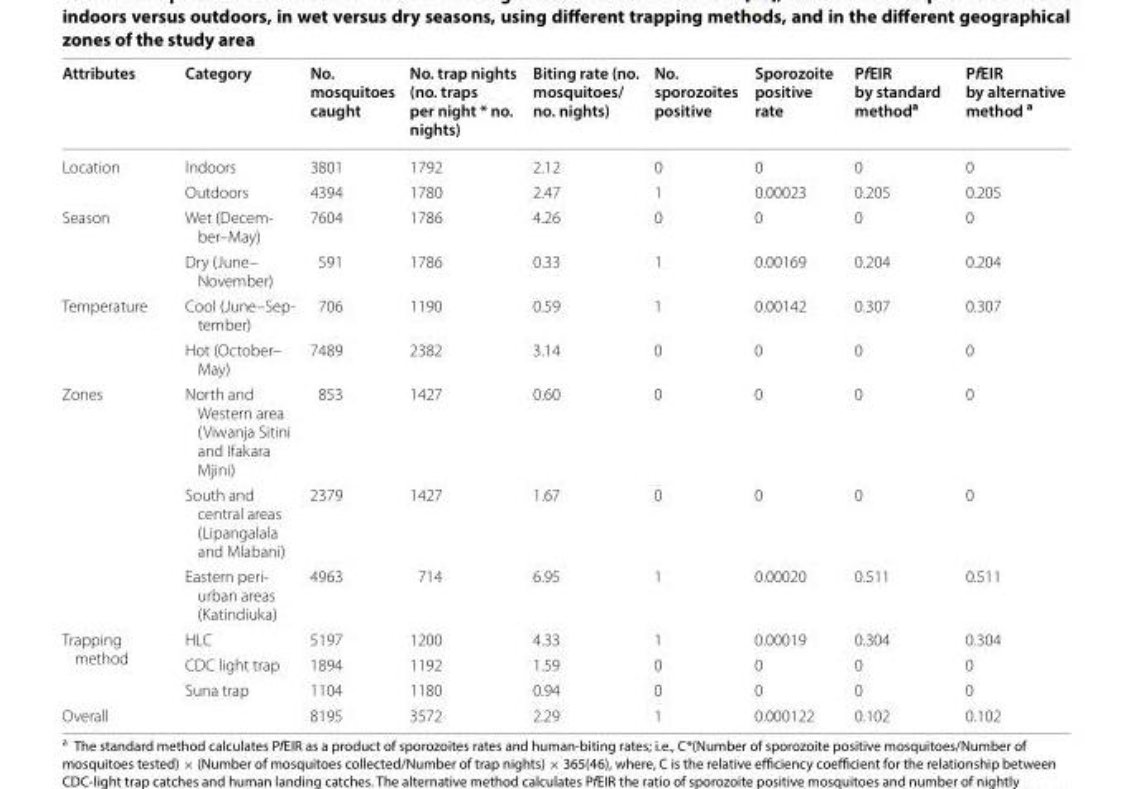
<table><thead><tr><td>Attributes</td><td>Category</td><td>No. mosquitoes caught</td><td>No. trap nights (no. traps per night * no. nights)</td><td>Biting rate (no. mosquitoes/ no. nights)</td><td>No. sporozoites positive</td><td>Sporozoite positive rate</td><td>PfEIR by standard method<sup>a</sup></td><td>PfEIR by alternative method <sup>a</sup></td></tr></thead><tbody><tr><td rowspan="2">Location</td><td>Indoors</td><td>3801</td><td>1792</td><td>2.12</td><td>0</td><td>0</td><td>0</td><td>0</td></tr><tr><td>Outdoors</td><td>4394</td><td>1780</td><td>2.47</td><td>1</td><td>0.00023</td><td>0.205</td><td>0.205</td></tr><tr><td rowspan="2">Season</td><td>Wet (Decem- ber–May)</td><td>7604</td><td>1786</td><td>4.26</td><td>0</td><td>0</td><td>0</td><td>0</td></tr><tr><td>Dry (June– November)</td><td>591</td><td>1786</td><td>0.33</td><td>1</td><td>0.00169</td><td>0.204</td><td>0.204</td></tr><tr><td rowspan="2">Temperature</td><td>Cool (June–Sep- tember)</td><td>706</td><td>1190</td><td>0.59</td><td>1</td><td>0.00142</td><td>0.307</td><td>0.307</td></tr><tr><td>Hot (October– May)</td><td>7489</td><td>2382</td><td>3.14</td><td>0</td><td>0</td><td>0</td><td>0</td></tr><tr><td rowspan="3">Zones</td><td>North and Western area (Viwanja Sitini and Ifakara Mjini)</td><td>853</td><td>1427</td><td>0.60</td><td>0</td><td>0</td><td>0</td><td>0</td></tr><tr><td>South and central areas (Lipangalala and Mlabani)</td><td>2379</td><td>1427</td><td>1.67</td><td>0</td><td>0</td><td>0</td><td>0</td></tr><tr><td>Eastern peri- urban areas (Katindiuka)</td><td>4963</td><td>714</td><td>6.95</td><td>1</td><td>0.00020</td><td>0.511</td><td>0.511</td></tr><tr><td rowspan="3">Trapping method</td><td>HLC</td><td>5197</td><td>1200</td><td>4.33</td><td>1</td><td>0.00019</td><td>0.304</td><td>0.304</td></tr><tr><td>CDC light trap</td><td>1894</td><td>1192</td><td>1.59</td><td>0</td><td>0</td><td>0</td><td>0</td></tr><tr><td>Suna trap</td><td>1104</td><td>1180</td><td>0.94</td><td>0</td><td>0</td><td>0</td><td>0</td></tr><tr><td colspan="2">Overall</td><td>8195</td><td>3572</td><td>2.29</td><td>1</td><td>0.000122</td><td>0.102</td><td>0.102</td></tr></tbody></table>